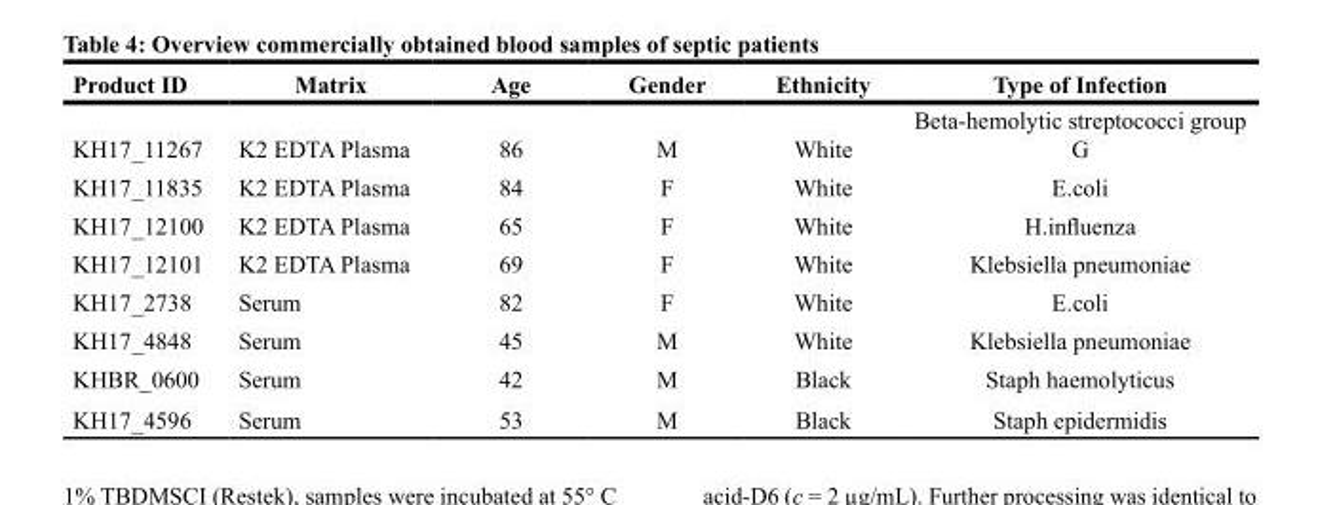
<table><thead><tr><td>Product ID</td><td>Matrix</td><td>Age</td><td>Gender</td><td>Ethnicity</td><td>Type of Infection</td></tr></thead><tbody><tr><td>KH17_11267</td><td>K2 EDTA Plasma</td><td>86</td><td>M</td><td>White</td><td>Beta-hemolytic streptococci group G</td></tr><tr><td>KH17_11835</td><td>K2 EDTA Plasma</td><td>84</td><td>F</td><td>White</td><td>E.coli</td></tr><tr><td>KH17_12100</td><td>K2 EDTA Plasma</td><td>65</td><td>F</td><td>White</td><td>H.influenza</td></tr><tr><td>KH17_12101</td><td>K2 EDTA Plasma</td><td>69</td><td>F</td><td>White</td><td>Klebsiella pneumoniae</td></tr><tr><td>KH17_2738</td><td>Serum</td><td>82</td><td>F</td><td>White</td><td>E.coli</td></tr><tr><td>KH17_4848</td><td>Serum</td><td>45</td><td>M</td><td>White</td><td>Klebsiella pneumoniae</td></tr><tr><td>KHBR_0600</td><td>Serum</td><td>42</td><td>M</td><td>Black</td><td>Staph haemolyticus</td></tr><tr><td>KH17_4596</td><td>Serum</td><td>53</td><td>M</td><td>Black</td><td>Staph epidermidis</td></tr></tbody></table>